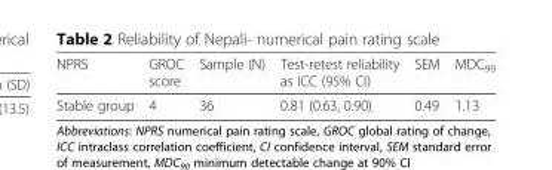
<table><thead><tr><td>NPRS</td><td>GROC score</td><td>Sample (N)</td><td>Test-retest reliability as ICC (95% CI)</td><td>SEM</td><td>MDC<sub>90</sub></td></tr></thead><tbody><tr><td>Stable group</td><td>4</td><td>36</td><td>0.81 (0.63, 0.90)</td><td>0.49</td><td>1.13</td></tr></tbody></table>